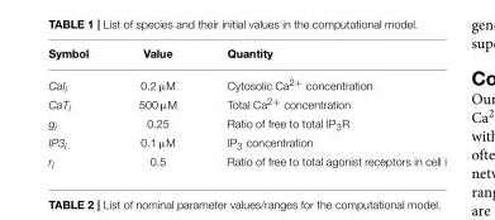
<table><thead><tr><td>Symbol</td><td>Value</td><td>Quantity</td></tr></thead><tbody><tr><td>CaIi</td><td>0.2 µM</td><td>Cytosolic Ca<sup>2+</sup> concentration</td></tr><tr><td>CaTi</td><td>500 µM</td><td>Total Ca<sup>2+</sup> concentration</td></tr><tr><td>gi</td><td>0.25</td><td>Ratio of free to total IP<sub>3</sub>R</td></tr><tr><td>IP3i</td><td>0.1 µM</td><td>IP<sub>3</sub> concentration</td></tr><tr><td>ri</td><td>0.5</td><td>Ratio of free to total agonist receptors in cell i</td></tr></tbody></table>